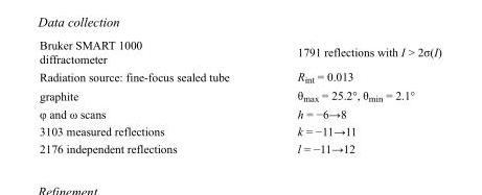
<table><tbody><tr><td>Bruker SMART 1000 diffractometer</td><td>1791 reflections with I &gt; 2σ(I)</td></tr><tr><td>Radiation source: fine-focus sealed tube</td><td>R<sub>int</sub> = 0.013</td></tr><tr><td>graphite</td><td>θ<sub>max</sub> = 25.2°, θ<sub>min</sub> = 2.1°</td></tr><tr><td>φ and ω scans</td><td>h = −6→8</td></tr><tr><td>3103 measured reflections</td><td>k = −11→11</td></tr><tr><td>2176 independent reflections</td><td>l = −11→12</td></tr></tbody></table>